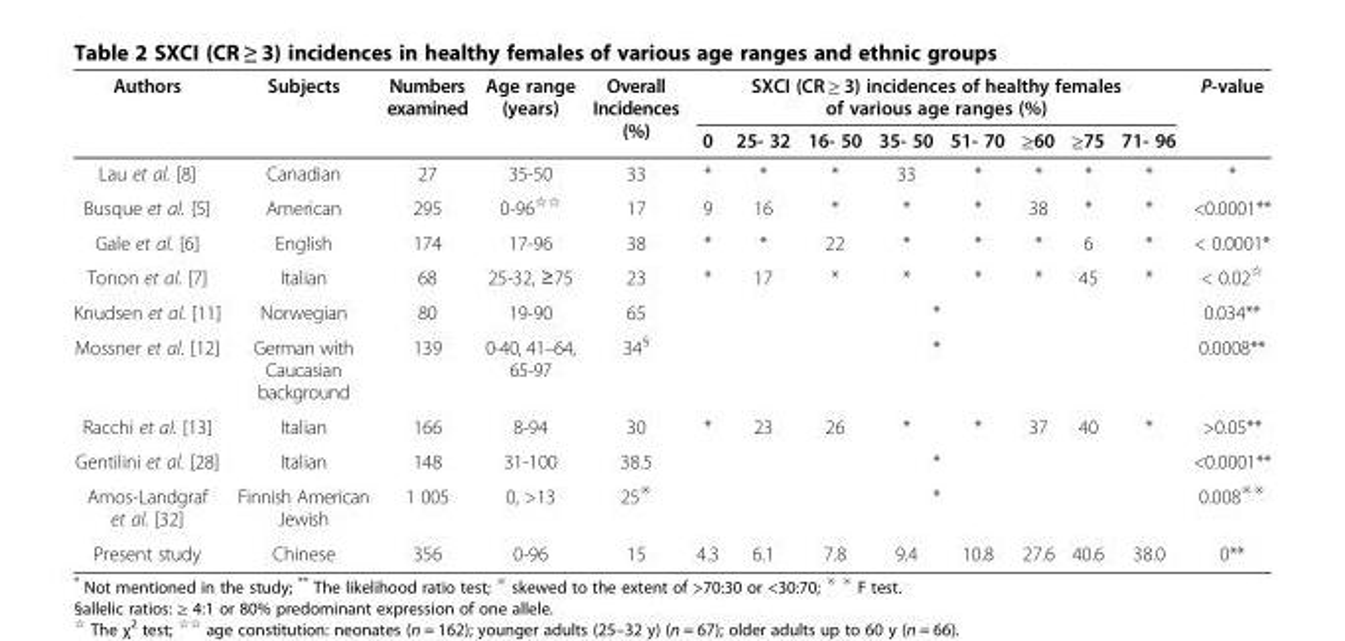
<table><thead><tr><td rowspan="2">Authors</td><td rowspan="2">Subjects</td><td rowspan="2">Numbers examined</td><td rowspan="2">Age range (years)</td><td rowspan="2">Overall Incidences (%)</td><td colspan="8">SXCI (CR ≥ 3) incidences of healthy females of various age ranges (%)</td><td rowspan="2">P-value</td></tr><tr><td>0</td><td>25- 32</td><td>16- 50</td><td>35- 50</td><td>51- 70</td><td>≥60</td><td>≥75</td><td>71- 96</td></tr></thead><tbody><tr><td>Lau et al. [8]</td><td>Canadian</td><td>27</td><td>35-50</td><td>33</td><td>*</td><td>*</td><td>*</td><td>33</td><td>*</td><td>*</td><td>*</td><td>*</td><td>*</td></tr><tr><td>Busque et al. [5]</td><td>American</td><td>295</td><td>0-96<sup>☆☆</sup></td><td>17</td><td>9</td><td>16</td><td>*</td><td>*</td><td>*</td><td>38</td><td>*</td><td>*</td><td>&lt;0.0001**</td></tr><tr><td>Gale et al. [6]</td><td>English</td><td>174</td><td>17-96</td><td>38</td><td>*</td><td>*</td><td>22</td><td>*</td><td>*</td><td>*</td><td>6</td><td>*</td><td>&lt; 0.0001*</td></tr><tr><td>Tonon et al. [7]</td><td>Italian</td><td>68</td><td>25-32, ≥75</td><td>23</td><td>*</td><td>17</td><td>*</td><td>*</td><td>*</td><td>*</td><td>45</td><td>*</td><td>&lt; 0.02<sup>☆</sup></td></tr><tr><td>Knudsen et al. [11]</td><td>Norwegian</td><td>80</td><td>19-90</td><td>65</td><td colspan="8">*</td><td>0.034**</td></tr><tr><td>Mossner et al. [12]</td><td>German with Caucasian background</td><td>139</td><td>0-40, 41–64, 65-97</td><td>34<sup>§</sup></td><td colspan="8">*</td><td>0.0008**</td></tr><tr><td>Racchi et al. [13]</td><td>Italian</td><td>166</td><td>8-94</td><td>30</td><td>*</td><td>23</td><td>26</td><td>*</td><td>*</td><td>37</td><td>40</td><td>*</td><td>&gt;0.05**</td></tr><tr><td>Gentilini et al. [28]</td><td>Italian</td><td>148</td><td>31-100</td><td>38.5</td><td colspan="8">*</td><td>&lt;0.0001**</td></tr><tr><td>Amos-Landgraf et al. [32]</td><td>Finnish American Jewish</td><td>1 005</td><td>0, &gt;13</td><td>25<sup>※</sup></td><td colspan="8">*</td><td>0.008<sup>※※</sup></td></tr><tr><td>Present study</td><td>Chinese</td><td>356</td><td>0-96</td><td>15</td><td>4.3</td><td>6.1</td><td>7.8</td><td>9.4</td><td>10.8</td><td>27.6</td><td>40.6</td><td>38.0</td><td>0**</td></tr></tbody></table>